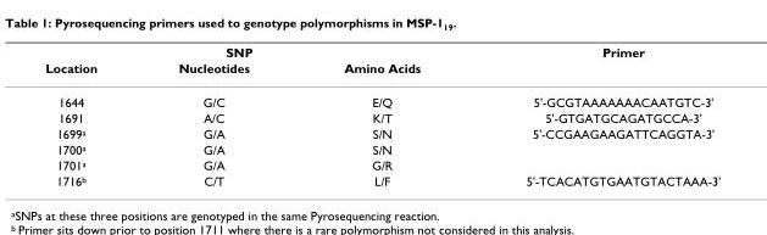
<table><thead><tr><td colspan="3">SNP</td><td rowspan="2">Primer</td></tr><tr><td>Location</td><td>Nucleotides</td><td>Amino Acids</td></tr></thead><tbody><tr><td>1644</td><td>G/C</td><td>E/Q</td><td>5&#x27;-GCGTAAAAAAACAATGTC-3&#x27;</td></tr><tr><td>1691</td><td>A/C</td><td>K/T</td><td>5&#x27;-GTGATGCAGATGCCA-3&#x27;</td></tr><tr><td>1699<sup>a</sup></td><td>G/A</td><td>S/N</td><td>5&#x27;-CCGAAGAAGATTCAGGTA-3&#x27;</td></tr><tr><td>1700<sup>a</sup></td><td>G/A</td><td>S/N</td><td></td></tr><tr><td>1701<sup>a</sup></td><td>G/A</td><td>G/R</td><td></td></tr><tr><td>1716<sup>b</sup></td><td>C/T</td><td>L/F</td><td>5&#x27;-TCACATGTGAATGTACTAAA-3&#x27;</td></tr></tbody></table>